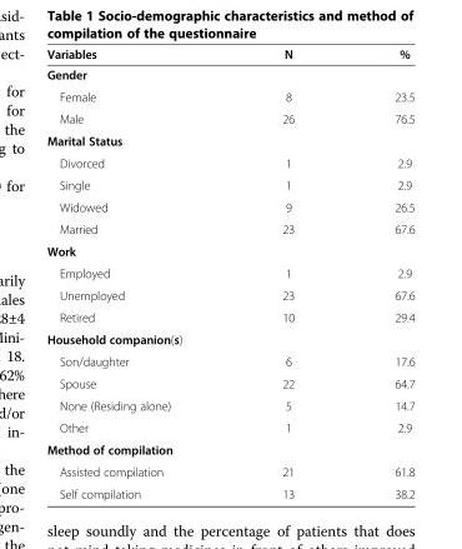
<table><thead><tr><td>Variables</td><td>N</td><td>%</td></tr></thead><tbody><tr><td colspan="3">Gender</td></tr><tr><td>Female</td><td>8</td><td>23.5</td></tr><tr><td>Male</td><td>26</td><td>76.5</td></tr><tr><td colspan="3">Marital Status</td></tr><tr><td>Divorced</td><td>1</td><td>2.9</td></tr><tr><td>Single</td><td>1</td><td>2.9</td></tr><tr><td>Widowed</td><td>9</td><td>26.5</td></tr><tr><td>Married</td><td>23</td><td>67.6</td></tr><tr><td colspan="3">Work</td></tr><tr><td>Employed</td><td>1</td><td>2.9</td></tr><tr><td>Unemployed</td><td>23</td><td>67.6</td></tr><tr><td>Retired</td><td>10</td><td>29.4</td></tr><tr><td colspan="3">Household companion(s)</td></tr><tr><td>Son/daughter</td><td>6</td><td>17.6</td></tr><tr><td>Spouse</td><td>22</td><td>64.7</td></tr><tr><td>None (Residing alone)</td><td>5</td><td>14.7</td></tr><tr><td>Other</td><td>1</td><td>2.9</td></tr><tr><td colspan="3">Method of compilation</td></tr><tr><td>Assisted compilation</td><td>21</td><td>61.8</td></tr><tr><td>Self compilation</td><td>13</td><td>38.2</td></tr></tbody></table>